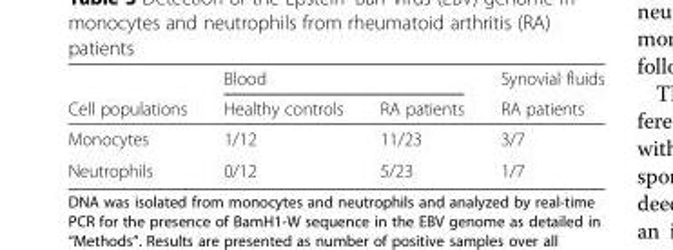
<table><thead><tr><td rowspan="2">Cell populations</td><td colspan="2">Blood</td><td rowspan="2">Synovial fluids RA patients</td></tr><tr><td>Healthy controls</td><td>RA patients</td></tr></thead><tbody><tr><td>Monocytes</td><td>1/12</td><td>11/23</td><td>3/7</td></tr><tr><td>Neutrophils</td><td>0/12</td><td>5/23</td><td>1/7</td></tr></tbody></table>